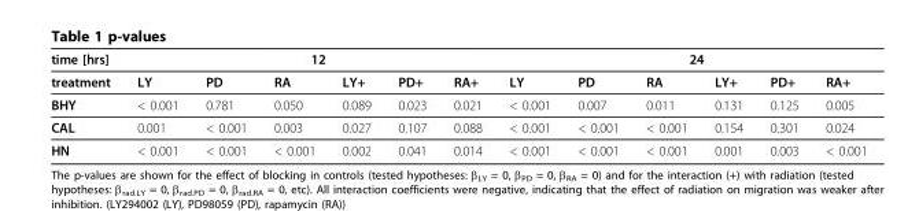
<table><thead><tr><td rowspan="2">time [hrs] treatment</td><td colspan="6">12</td><td colspan="6">24</td></tr><tr><td>LY</td><td>PD</td><td>RA</td><td>LY+</td><td>PD+</td><td>RA+</td><td>LY</td><td>PD</td><td>RA</td><td>LY+</td><td>PD+</td><td>RA+</td></tr></thead><tbody><tr><td>BHY</td><td>&lt; 0.001</td><td>0.781</td><td>0.050</td><td>0.089</td><td>0.023</td><td>0.021</td><td>&lt; 0.001</td><td>0.007</td><td>0.011</td><td>0.131</td><td>0.125</td><td>0.005</td></tr><tr><td>CAL</td><td>0.001</td><td>&lt; 0.001</td><td>0.003</td><td>0.027</td><td>0.107</td><td>0.088</td><td>&lt; 0.001</td><td>&lt; 0.001</td><td>&lt; 0.001</td><td>0.154</td><td>0.301</td><td>0.024</td></tr><tr><td>HN</td><td>&lt; 0.001</td><td>&lt; 0.001</td><td>&lt; 0.001</td><td>0.002</td><td>0.041</td><td>0.014</td><td>&lt; 0.001</td><td>&lt; 0.001</td><td>&lt; 0.001</td><td>0.001</td><td>0.003</td><td>&lt; 0.001</td></tr></tbody></table>